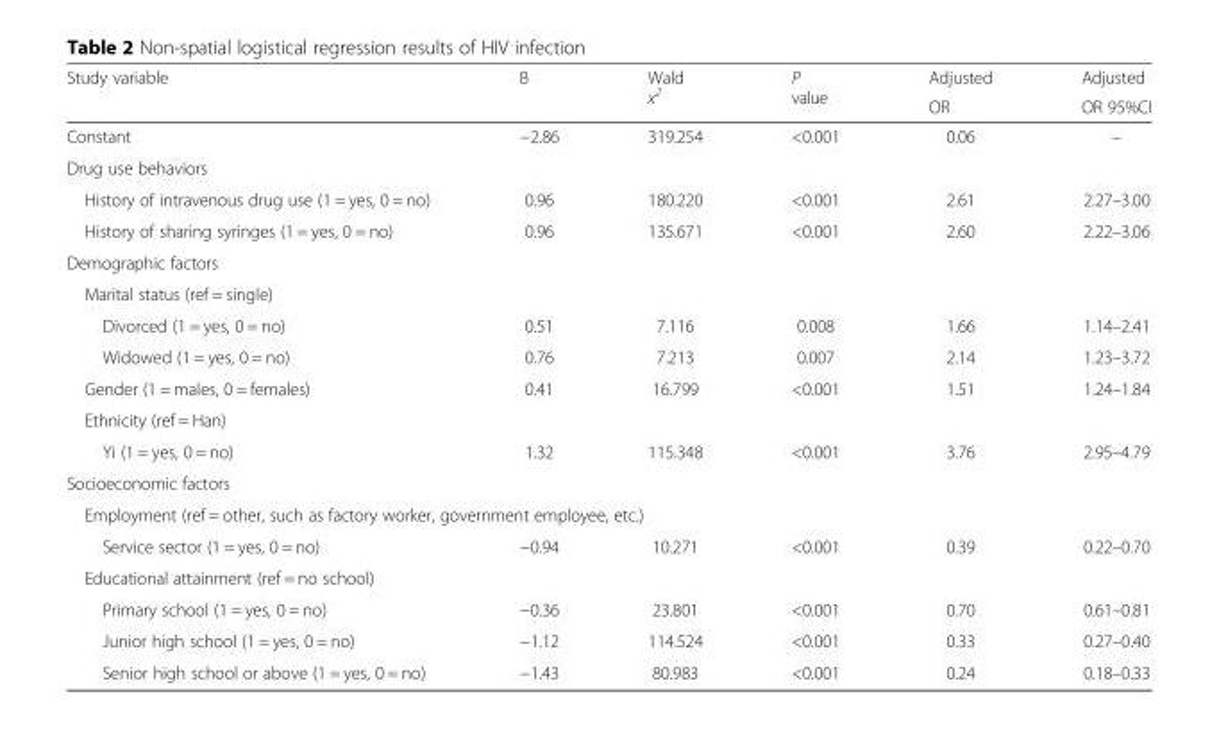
<table><thead><tr><td rowspan="2">Study variable</td><td rowspan="2">B</td><td rowspan="2">Wald x<sup>2</sup></td><td rowspan="2">P value</td><td rowspan="2">Adjusted OR</td><td rowspan="2">Adjusted OR 95%CI</td></tr><tr></tr></thead><tbody><tr><td>Constant</td><td>−2.86</td><td>319.254</td><td>&lt;0.001</td><td>0.06</td><td>–</td></tr><tr><td colspan="6">Drug use behaviors</td></tr><tr><td>History of intravenous drug use (1 = yes, 0 = no)</td><td>0.96</td><td>180.220</td><td>&lt;0.001</td><td>2.61</td><td>2.27–3.00</td></tr><tr><td>History of sharing syringes (1 = yes, 0 = no)</td><td>0.96</td><td>135.671</td><td>&lt;0.001</td><td>2.60</td><td>2.22–3.06</td></tr><tr><td colspan="6">Demographic factors</td></tr><tr><td colspan="6">Marital status (ref = single)</td></tr><tr><td>Divorced (1 = yes, 0 = no)</td><td>0.51</td><td>7.116</td><td>0.008</td><td>1.66</td><td>1.14–2.41</td></tr><tr><td>Widowed (1 = yes, 0 = no)</td><td>0.76</td><td>7.213</td><td>0.007</td><td>2.14</td><td>1.23–3.72</td></tr><tr><td>Gender (1 = males, 0 = females)</td><td>0.41</td><td>16.799</td><td>&lt;0.001</td><td>1.51</td><td>1.24–1.84</td></tr><tr><td colspan="6">Ethnicity (ref = Han)</td></tr><tr><td>Yi (1 = yes, 0 = no)</td><td>1.32</td><td>115.348</td><td>&lt;0.001</td><td>3.76</td><td>2.95–4.79</td></tr><tr><td colspan="6">Socioeconomic factors</td></tr><tr><td colspan="6">Employment (ref = other, such as factory worker, government employee, etc.)</td></tr><tr><td>Service sector (1 = yes, 0 = no)</td><td>−0.94</td><td>10.271</td><td>&lt;0.001</td><td>0.39</td><td>0.22–0.70</td></tr><tr><td colspan="6">Educational attainment (ref = no school)</td></tr><tr><td>Primary school (1 = yes, 0 = no)</td><td>−0.36</td><td>23.801</td><td>&lt;0.001</td><td>0.70</td><td>0.61–0.81</td></tr><tr><td>Junior high school (1 = yes, 0 = no)</td><td>−1.12</td><td>114.524</td><td>&lt;0.001</td><td>0.33</td><td>0.27–0.40</td></tr><tr><td>Senior high school or above (1 = yes, 0 = no)</td><td>−1.43</td><td>80.983</td><td>&lt;0.001</td><td>0.24</td><td>0.18–0.33</td></tr></tbody></table>